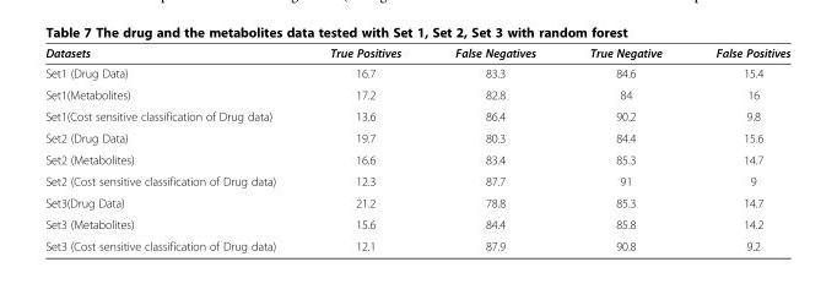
<table><thead><tr><td>Datasets</td><td>True Positives</td><td>False Negatives</td><td>True Negative</td><td>False Positives</td></tr></thead><tbody><tr><td>Set1 (Drug Data)</td><td>16.7</td><td>83.3</td><td>84.6</td><td>15.4</td></tr><tr><td>Set1(Metabolites)</td><td>17.2</td><td>82.8</td><td>84</td><td>16</td></tr><tr><td>Set1(Cost sensitive classification of Drug data)</td><td>13.6</td><td>86.4</td><td>90.2</td><td>9.8</td></tr><tr><td>Set2 (Drug Data)</td><td>19.7</td><td>80.3</td><td>84.4</td><td>15.6</td></tr><tr><td>Set2 (Metabolites)</td><td>16.6</td><td>83.4</td><td>85.3</td><td>14.7</td></tr><tr><td>Set2 (Cost sensitive classification of Drug data)</td><td>12.3</td><td>87.7</td><td>91</td><td>9</td></tr><tr><td>Set3(Drug Data)</td><td>21.2</td><td>78.8</td><td>85.3</td><td>14.7</td></tr><tr><td>Set3 (Metabolites)</td><td>15.6</td><td>84.4</td><td>85.8</td><td>14.2</td></tr><tr><td>Set3 (Cost sensitive classification of Drug data)</td><td>12.1</td><td>87.9</td><td>90.8</td><td>9.2</td></tr></tbody></table>